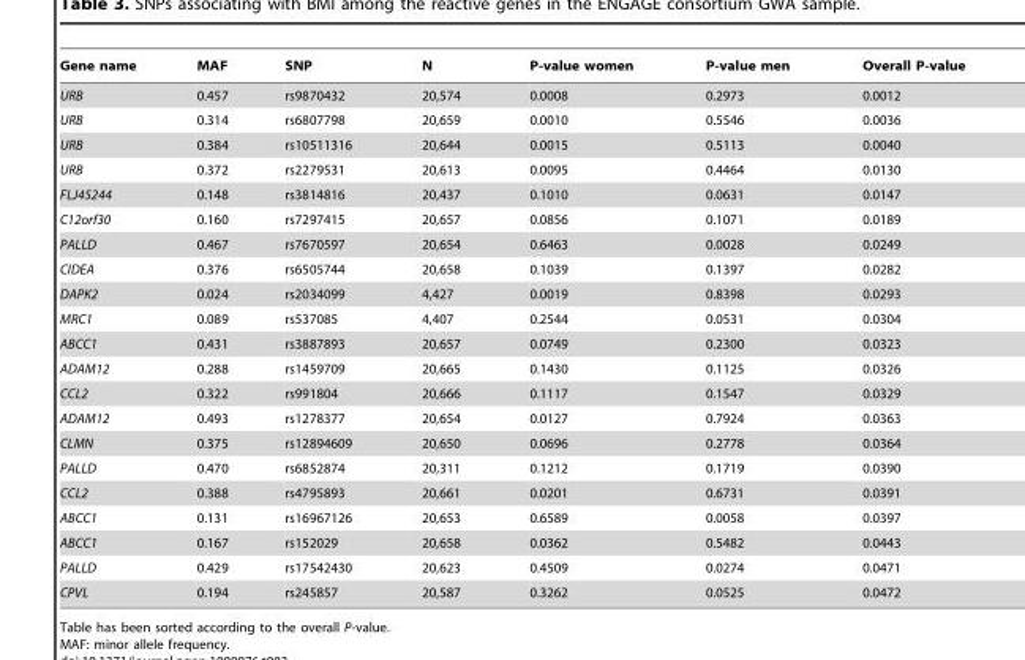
<table><thead><tr><td>Gene name</td><td>MAF</td><td>SNP</td><td>N</td><td>P-value women</td><td>P-value men</td><td>Overall P-value</td></tr></thead><tbody><tr><td>URB</td><td>0.457</td><td>rs9870432</td><td>20,574</td><td>0.0008</td><td>0.2973</td><td>0.0012</td></tr><tr><td>URB</td><td>0.314</td><td>rs6807798</td><td>20,659</td><td>0.0010</td><td>0.5546</td><td>0.0036</td></tr><tr><td>URB</td><td>0.384</td><td>rs10511316</td><td>20,644</td><td>0.0015</td><td>0.5113</td><td>0.0040</td></tr><tr><td>URB</td><td>0.372</td><td>rs2279531</td><td>20,613</td><td>0.0095</td><td>0.4464</td><td>0.0130</td></tr><tr><td>FLJ45244</td><td>0.148</td><td>rs3814816</td><td>20,437</td><td>0.1010</td><td>0.0631</td><td>0.0147</td></tr><tr><td>C12orf30</td><td>0.160</td><td>rs7297415</td><td>20,657</td><td>0.0856</td><td>0.1071</td><td>0.0189</td></tr><tr><td>PALLD</td><td>0.467</td><td>rs7670597</td><td>20,654</td><td>0.6463</td><td>0.0028</td><td>0.0249</td></tr><tr><td>CIDEA</td><td>0.376</td><td>rs6505744</td><td>20,658</td><td>0.1039</td><td>0.1397</td><td>0.0282</td></tr><tr><td>DAPK2</td><td>0.024</td><td>rs2034099</td><td>4,427</td><td>0.0019</td><td>0.8398</td><td>0.0293</td></tr><tr><td>MRC1</td><td>0.089</td><td>rs537085</td><td>4,407</td><td>0.2544</td><td>0.0531</td><td>0.0304</td></tr><tr><td>ABCC1</td><td>0.431</td><td>rs3887893</td><td>20,657</td><td>0.0749</td><td>0.2300</td><td>0.0323</td></tr><tr><td>ADAM12</td><td>0.288</td><td>rs1459709</td><td>20,665</td><td>0.1430</td><td>0.1125</td><td>0.0326</td></tr><tr><td>CCL2</td><td>0.322</td><td>rs991804</td><td>20,666</td><td>0.1117</td><td>0.1547</td><td>0.0329</td></tr><tr><td>ADAM12</td><td>0.493</td><td>rs1278377</td><td>20,654</td><td>0.0127</td><td>0.7924</td><td>0.0363</td></tr><tr><td>CLMN</td><td>0.375</td><td>rs12894609</td><td>20,650</td><td>0.0696</td><td>0.2778</td><td>0.0364</td></tr><tr><td>PALLD</td><td>0.470</td><td>rs6852874</td><td>20,311</td><td>0.1212</td><td>0.1719</td><td>0.0390</td></tr><tr><td>CCL2</td><td>0.388</td><td>rs4795893</td><td>20,661</td><td>0.0201</td><td>0.6731</td><td>0.0391</td></tr><tr><td>ABCC1</td><td>0.131</td><td>rs16967126</td><td>20,653</td><td>0.6589</td><td>0.0058</td><td>0.0397</td></tr><tr><td>ABCC1</td><td>0.167</td><td>rs152029</td><td>20,658</td><td>0.0362</td><td>0.5482</td><td>0.0443</td></tr><tr><td>PALLD</td><td>0.429</td><td>rs17542430</td><td>20,623</td><td>0.4509</td><td>0.0274</td><td>0.0471</td></tr><tr><td>CPVL</td><td>0.194</td><td>rs245857</td><td>20,587</td><td>0.3262</td><td>0.0525</td><td>0.0472</td></tr></tbody></table>